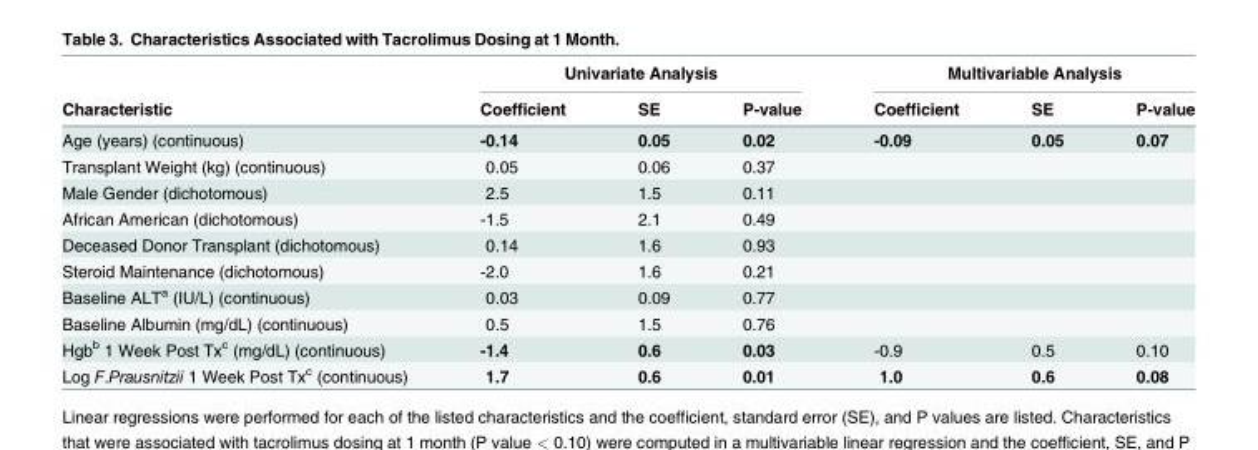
<table><thead><tr><td rowspan="2">Characteristic</td><td colspan="3">Univariate Analysis</td><td colspan="3">Multivariable Analysis</td></tr><tr><td>Coefficient</td><td>SE</td><td>P-value</td><td>Coefficient</td><td>SE</td><td>P-value</td></tr></thead><tbody><tr><td>Age (years) (continuous)</td><td>-0.14</td><td>0.05</td><td>0.02</td><td>-0.09</td><td>0.05</td><td>0.07</td></tr><tr><td>Transplant Weight (kg) (continuous)</td><td>0.05</td><td>0.06</td><td>0.37</td><td></td><td></td><td></td></tr><tr><td>Male Gender (dichotomous)</td><td>2.5</td><td>1.5</td><td>0.11</td><td></td><td></td><td></td></tr><tr><td>African American (dichotomous)</td><td>-1.5</td><td>2.1</td><td>0.49</td><td></td><td></td><td></td></tr><tr><td>Deceased Donor Transplant (dichotomous)</td><td>0.14</td><td>1.6</td><td>0.93</td><td></td><td></td><td></td></tr><tr><td>Steroid Maintenance (dichotomous)</td><td>-2.0</td><td>1.6</td><td>0.21</td><td></td><td></td><td></td></tr><tr><td>Baseline ALT<sup>a</sup> (IU/L) (continuous)</td><td>0.03</td><td>0.09</td><td>0.77</td><td></td><td></td><td></td></tr><tr><td>Baseline Albumin (mg/dL) (continuous)</td><td>0.5</td><td>1.5</td><td>0.76</td><td></td><td></td><td></td></tr><tr><td>Hgb<sup>b</sup> 1 Week Post Tx<sup>c</sup> (mg/dL) (continuous)</td><td>-1.4</td><td>0.6</td><td>0.03</td><td>-0.9</td><td>0.5</td><td>0.10</td></tr><tr><td>Log F.Prausnitzii 1 Week Post Tx<sup>c</sup> (continuous)</td><td>1.7</td><td>0.6</td><td>0.01</td><td>1.0</td><td>0.6</td><td>0.08</td></tr></tbody></table>